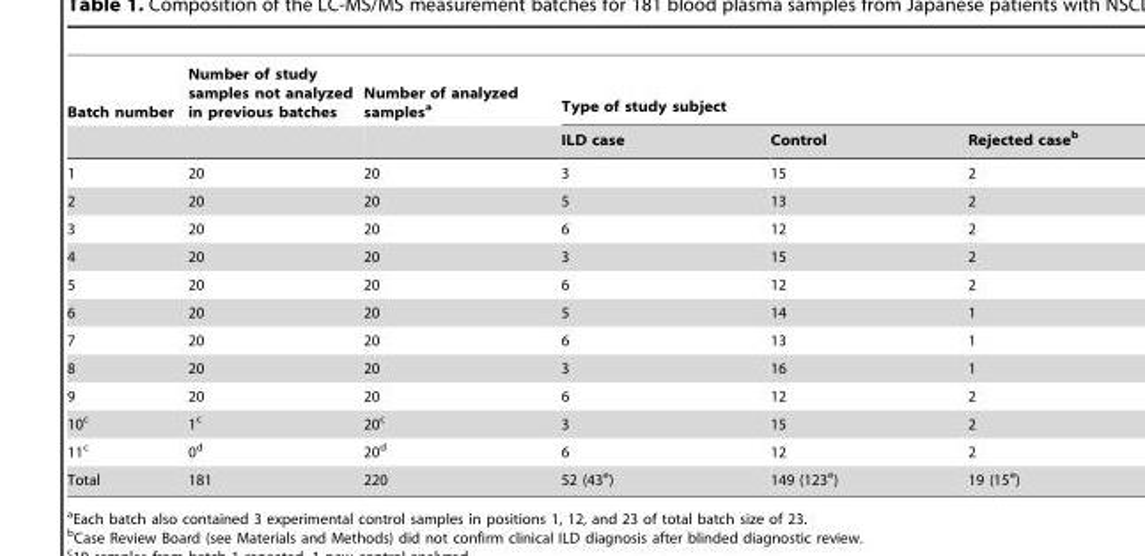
<table><thead><tr><td rowspan="2">Batch number</td><td rowspan="2">Number of study samples not analyzed in previous batches</td><td rowspan="2">Number of analyzed samples<sup>a</sup></td><td colspan="3">Type of study subject</td></tr><tr><td>ILD case</td><td>Control</td><td>Rejected case<sup>b</sup></td></tr></thead><tbody><tr><td>1</td><td>20</td><td>20</td><td>3</td><td>15</td><td>2</td></tr><tr><td>2</td><td>20</td><td>20</td><td>5</td><td>13</td><td>2</td></tr><tr><td>3</td><td>20</td><td>20</td><td>6</td><td>12</td><td>2</td></tr><tr><td>4</td><td>20</td><td>20</td><td>3</td><td>15</td><td>2</td></tr><tr><td>5</td><td>20</td><td>20</td><td>6</td><td>12</td><td>2</td></tr><tr><td>6</td><td>20</td><td>20</td><td>5</td><td>14</td><td>1</td></tr><tr><td>7</td><td>20</td><td>20</td><td>6</td><td>13</td><td>1</td></tr><tr><td>8</td><td>20</td><td>20</td><td>3</td><td>16</td><td>1</td></tr><tr><td>9</td><td>20</td><td>20</td><td>6</td><td>12</td><td>2</td></tr><tr><td>10<sup>c</sup></td><td>1<sup>c</sup></td><td>20<sup>c</sup></td><td>3</td><td>15</td><td>2</td></tr><tr><td>11<sup>c</sup></td><td>0<sup>d</sup></td><td>20<sup>d</sup></td><td>6</td><td>12</td><td>2</td></tr><tr><td>Total</td><td>181</td><td>220</td><td>52 (43<sup>e</sup>)</td><td>149 (123<sup>e</sup>)</td><td>19 (15<sup>e</sup>)</td></tr></tbody></table>